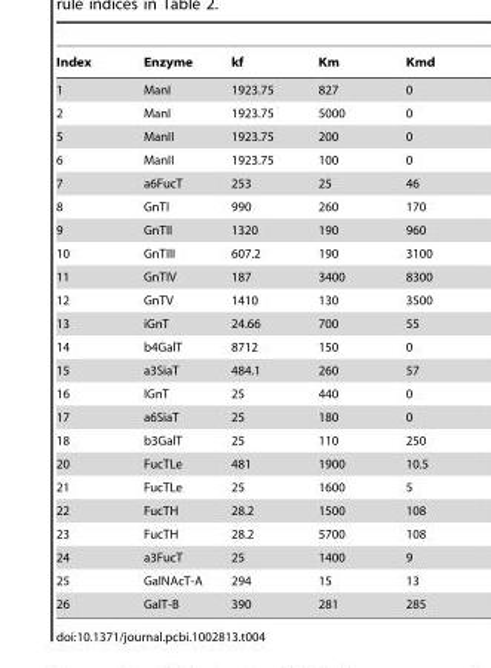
<table><thead><tr><td>Index</td><td>Enzyme</td><td>kf</td><td>Km</td><td>Kmd</td></tr></thead><tbody><tr><td>1</td><td>ManI</td><td>1923.75</td><td>827</td><td>0</td></tr><tr><td>2</td><td>ManI</td><td>1923.75</td><td>5000</td><td>0</td></tr><tr><td>5</td><td>ManII</td><td>1923.75</td><td>200</td><td>0</td></tr><tr><td>6</td><td>ManII</td><td>1923.75</td><td>100</td><td>0</td></tr><tr><td>7</td><td>a6FucT</td><td>253</td><td>25</td><td>46</td></tr><tr><td>8</td><td>GnTI</td><td>990</td><td>260</td><td>170</td></tr><tr><td>9</td><td>GnTII</td><td>1320</td><td>190</td><td>960</td></tr><tr><td>10</td><td>GnTIII</td><td>607.2</td><td>190</td><td>3100</td></tr><tr><td>11</td><td>GnTIV</td><td>187</td><td>3400</td><td>8300</td></tr><tr><td>12</td><td>GnTV</td><td>1410</td><td>130</td><td>3500</td></tr><tr><td>13</td><td>iGnT</td><td>24.66</td><td>700</td><td>55</td></tr><tr><td>14</td><td>b4GalT</td><td>8712</td><td>150</td><td>0</td></tr><tr><td>15</td><td>a3SiaT</td><td>484.1</td><td>260</td><td>57</td></tr><tr><td>16</td><td>IGnT</td><td>25</td><td>440</td><td>0</td></tr><tr><td>17</td><td>a6SiaT</td><td>25</td><td>180</td><td>0</td></tr><tr><td>18</td><td>b3GalT</td><td>25</td><td>110</td><td>250</td></tr><tr><td>20</td><td>FucTLe</td><td>481</td><td>1900</td><td>10.5</td></tr><tr><td>21</td><td>FucTLe</td><td>25</td><td>1600</td><td>5</td></tr><tr><td>22</td><td>FucTH</td><td>28.2</td><td>1500</td><td>108</td></tr><tr><td>23</td><td>FucTH</td><td>28.2</td><td>5700</td><td>108</td></tr><tr><td>24</td><td>a3FucT</td><td>25</td><td>1400</td><td>9</td></tr><tr><td>25</td><td>GalNAcT-A</td><td>294</td><td>15</td><td>13</td></tr><tr><td>26</td><td>GalT-B</td><td>390</td><td>281</td><td>285</td></tr></tbody></table>